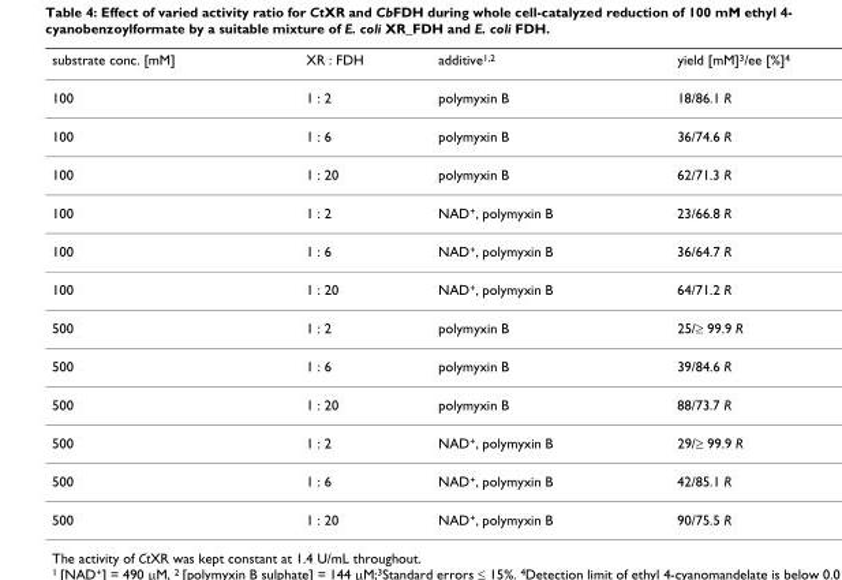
<table><thead><tr><td>substrate conc. [mM]</td><td>XR : FDH</td><td>additive<sup>1,2</sup></td><td>yield [mM]<sup>3</sup>/ee [%]<sup>4</sup></td></tr></thead><tbody><tr><td>100</td><td>1 : 2</td><td>polymyxin B</td><td>18/86.1 R</td></tr><tr><td>100</td><td>1 : 6</td><td>polymyxin B</td><td>36/74.6 R</td></tr><tr><td>100</td><td>1 : 20</td><td>polymyxin B</td><td>62/71.3 R</td></tr><tr><td>100</td><td>1 : 2</td><td>NAD<sup>+</sup>, polymyxin B</td><td>23/66.8 R</td></tr><tr><td>100</td><td>1 : 6</td><td>NAD<sup>+</sup>, polymyxin B</td><td>36/64.7 R</td></tr><tr><td>100</td><td>1 : 20</td><td>NAD<sup>+</sup>, polymyxin B</td><td>64/71.2 R</td></tr><tr><td>500</td><td>1 : 2</td><td>polymyxin B</td><td>25/≥ 99.9 R</td></tr><tr><td>500</td><td>1 : 6</td><td>polymyxin B</td><td>39/84.6 R</td></tr><tr><td>500</td><td>1 : 20</td><td>polymyxin B</td><td>88/73.7 R</td></tr><tr><td>500</td><td>1 : 2</td><td>NAD<sup>+</sup>, polymyxin B</td><td>29/≥ 99.9 R</td></tr><tr><td>500</td><td>1 : 6</td><td>NAD<sup>+</sup>, polymyxin B</td><td>42/85.1 R</td></tr><tr><td>500</td><td>1 : 20</td><td>NAD<sup>+</sup>, polymyxin B</td><td>90/75.5 R</td></tr></tbody></table>